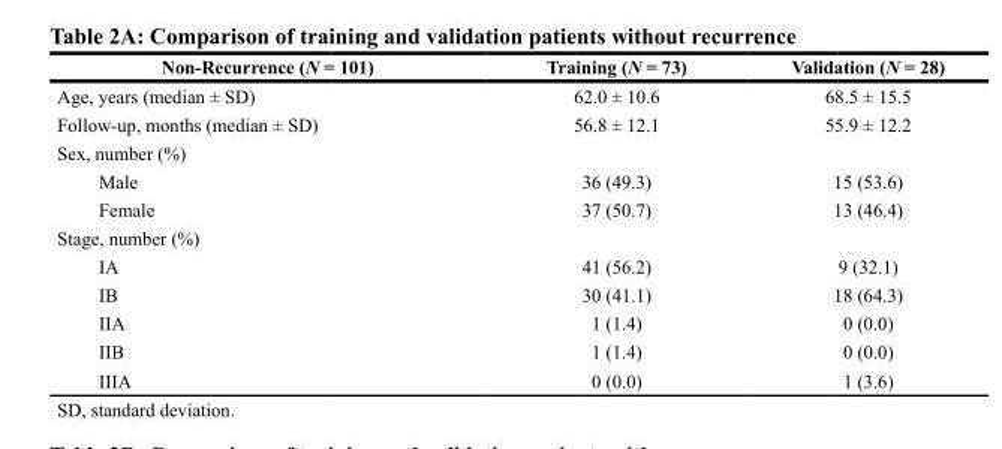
<table><thead><tr><td>Non-Recurrence (N = 101)</td><td>Training (N = 73)</td><td>Validation (N = 28)</td></tr></thead><tbody><tr><td>Age, years (median ± SD)</td><td>62.0 ± 10.6</td><td>68.5 ± 15.5</td></tr><tr><td>Follow-up, months (median ± SD)</td><td>56.8 ± 12.1</td><td>55.9 ± 12.2</td></tr><tr><td colspan="3">Sex, number (%)</td></tr><tr><td>Male</td><td>36 (49.3)</td><td>15 (53.6)</td></tr><tr><td>Female</td><td>37 (50.7)</td><td>13 (46.4)</td></tr><tr><td colspan="3">Stage, number (%)</td></tr><tr><td>IA</td><td>41 (56.2)</td><td>9 (32.1)</td></tr><tr><td>IB</td><td>30 (41.1)</td><td>18 (64.3)</td></tr><tr><td>IIA</td><td>1 (1.4)</td><td>0 (0.0)</td></tr><tr><td>IIB</td><td>1 (1.4)</td><td>0 (0.0)</td></tr><tr><td>IIIA</td><td>0 (0.0)</td><td>1 (3.6)</td></tr></tbody></table>